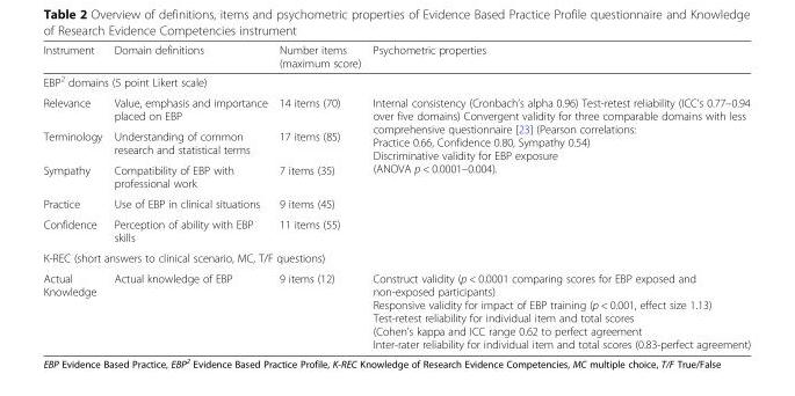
<table><thead><tr><td>Instrument</td><td>Domain definitions</td><td>Number items (maximum score)</td><td>Psychometric properties</td></tr></thead><tbody><tr><td colspan="4">EBP<sup>2</sup> domains (5 point Likert scale)</td></tr><tr><td>Relevance</td><td>Value, emphasis and importance placed on EBP</td><td>14 items (70)</td><td rowspan="5">Internal consistency (Cronbach’s alpha 0.96) Test-retest reliability (ICC’s 0.77–0.94 over five domains) Convergent validity for three comparable domains with less comprehensive questionnaire [23] (Pearson correlations: Practice 0.66, Confidence 0.80, Sympathy 0.54) Discriminative validity for EBP exposure (ANOVA p &lt; 0.0001–0.004).</td></tr><tr><td>Terminology</td><td>Understanding of common research and statistical terms</td><td>17 items (85)</td></tr><tr><td>Sympathy</td><td>Compatibility of EBP with professional work</td><td>7 items (35)</td></tr><tr><td>Practice</td><td>Use of EBP in clinical situations</td><td>9 items (45)</td></tr><tr><td>Confidence</td><td>Perception of ability with EBP skills</td><td>11 items (55)</td></tr><tr><td colspan="4">K-REC (short answers to clinical scenario, MC, T/F questions)</td></tr><tr><td>Actual Knowledge</td><td>Actual knowledge of EBP</td><td>9 items (12)</td><td>Construct validity (p &lt; 0.0001 comparing scores for EBP exposed and non-exposed participants) Responsive validity for impact of EBP training (p &lt; 0.001, effect size 1.13) Test-retest reliability for individual item and total scores (Cohen’s kappa and ICC range 0.62 to perfect agreement Inter-rater reliability for individual item and total scores (0.83-perfect agreement)</td></tr></tbody></table>